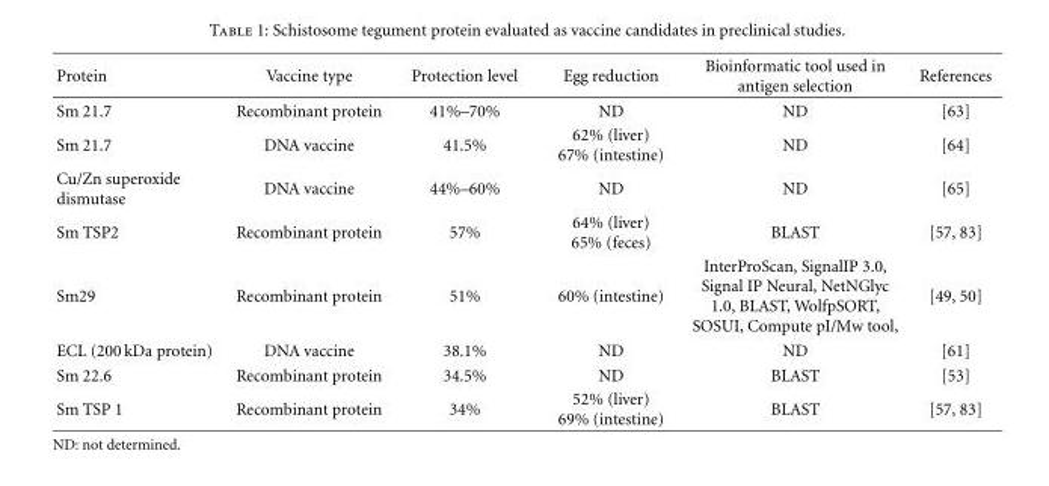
<table><thead><tr><td>Protein</td><td>Vaccine type</td><td>Protection level</td><td>Egg reduction</td><td>Bioinformatic tool used in antigen selection</td><td>References</td></tr></thead><tbody><tr><td>Sm 21.7</td><td>Recombinant protein</td><td>41%–70%</td><td>ND</td><td>ND</td><td>[63]</td></tr><tr><td>Sm 21.7</td><td>DNA vaccine</td><td>41.5%</td><td>62% (liver) 67% (intestine)</td><td>ND</td><td>[64]</td></tr><tr><td>Cu/Zn superoxide dismutase</td><td>DNA vaccine</td><td>44%–60%</td><td>ND</td><td>ND</td><td>[65]</td></tr><tr><td>Sm TSP2</td><td>Recombinant protein</td><td>57%</td><td>64% (liver) 65% (feces)</td><td>BLAST</td><td>[57, 83]</td></tr><tr><td>Sm29</td><td>Recombinant protein</td><td>51%</td><td>60% (intestine)</td><td>InterProScan, SignalIP 3.0, Signal IP Neural, NetNGlyc 1.0, BLAST, WolfpSORT, SOSUI, Compute pI/Mw tool,</td><td>[49, 50]</td></tr><tr><td>ECL (200 kDa protein)</td><td>DNA vaccine</td><td>38.1%</td><td>ND</td><td>ND</td><td>[61]</td></tr><tr><td>Sm 22.6</td><td>Recombinant protein</td><td>34.5%</td><td>ND</td><td>BLAST</td><td>[53]</td></tr><tr><td>Sm TSP 1</td><td>Recombinant protein</td><td>34%</td><td>52% (liver) 69% (intestine)</td><td>BLAST</td><td>[57, 83]</td></tr></tbody></table>